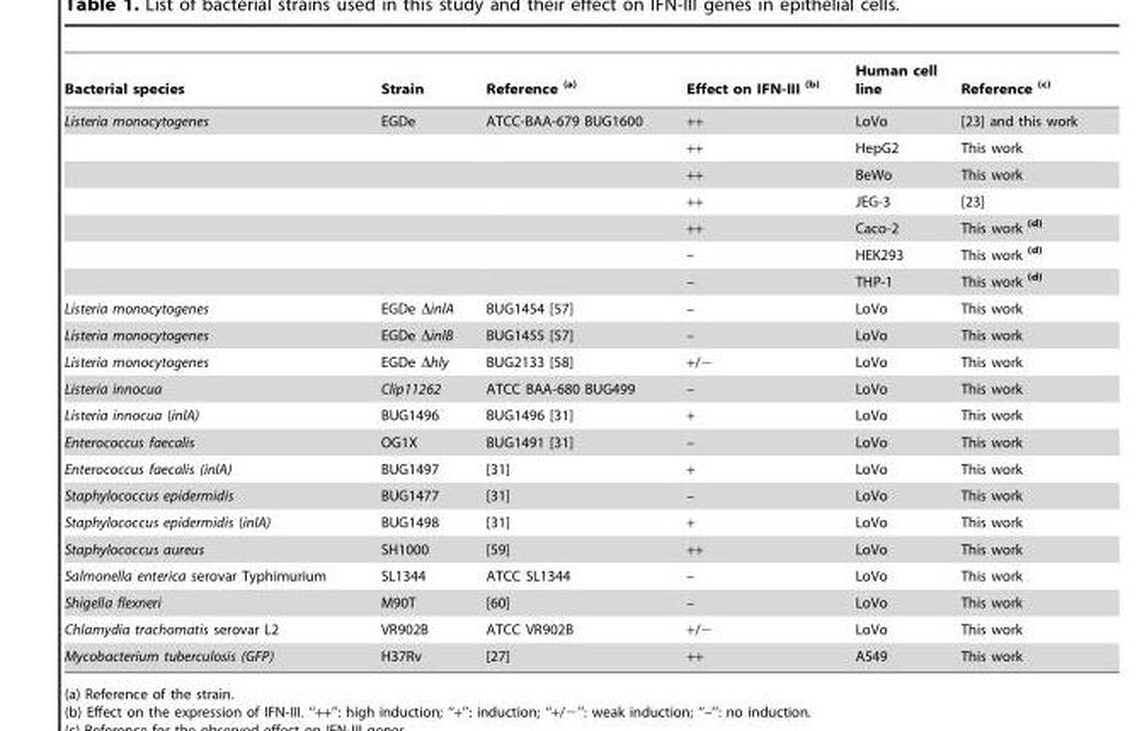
<table><thead><tr><td>Bacterial species</td><td>Strain</td><td>Reference <sup>(a)</sup></td><td>Effect on IFN-III <sup>(b)</sup></td><td>Human cell line</td><td>Reference <sup>(c)</sup></td></tr></thead><tbody><tr><td rowspan="7">Listeria monocytogenes</td><td>EGDe</td><td>ATCC-BAA-679 BUG1600</td><td>++</td><td>LoVo</td><td>[23] and this work</td></tr><tr><td></td><td></td><td>++</td><td>HepG2</td><td>This work</td></tr><tr><td></td><td></td><td>++</td><td>BeWo</td><td>This work</td></tr><tr><td></td><td></td><td>++</td><td>JEG-3</td><td>[23]</td></tr><tr><td></td><td></td><td>++</td><td>Caco-2</td><td>This work <sup>(d)</sup></td></tr><tr><td></td><td></td><td>–</td><td>HEK293</td><td>This work <sup>(d)</sup></td></tr><tr><td></td><td></td><td>–</td><td>THP-1</td><td>This work <sup>(d)</sup></td></tr><tr><td>Listeria monocytogenes</td><td>EGDe ΔinlA</td><td>BUG1454 [57]</td><td>–</td><td>LoVo</td><td>This work</td></tr><tr><td>Listeria monocytogenes</td><td>EGDe ΔinlB</td><td>BUG1455 [57]</td><td>–</td><td>LoVo</td><td>This work</td></tr><tr><td>Listeria monocytogenes</td><td>EGDe Δhly</td><td>BUG2133 [58]</td><td>+/−</td><td>LoVo</td><td>This work</td></tr><tr><td>Listeria innocua</td><td>Clip11262</td><td>ATCC BAA-680 BUG499</td><td>–</td><td>LoVo</td><td>This work</td></tr><tr><td>Listeria innocua (inlA)</td><td>BUG1496</td><td>BUG1496 [31]</td><td>+</td><td>LoVo</td><td>This work</td></tr><tr><td>Enterococcus faecalis</td><td>OG1X</td><td>BUG1491 [31]</td><td>–</td><td>LoVo</td><td>This work</td></tr><tr><td>Enterococcus faecalis (inlA)</td><td>BUG1497</td><td>[31]</td><td>+</td><td>LoVo</td><td>This work</td></tr><tr><td>Staphylococcus epidermidis</td><td>BUG1477</td><td>[31]</td><td>–</td><td>LoVo</td><td>This work</td></tr><tr><td>Staphylococcus epidermidis (inlA)</td><td>BUG1498</td><td>[31]</td><td>+</td><td>LoVo</td><td>This work</td></tr><tr><td>Staphylococcus aureus</td><td>SH1000</td><td>[59]</td><td>++</td><td>LoVo</td><td>This work</td></tr><tr><td>Salmonella enterica serovar Typhimurium</td><td>SL1344</td><td>ATCC SL1344</td><td>–</td><td>LoVo</td><td>This work</td></tr><tr><td>Shigella flexneri</td><td>M90T</td><td>[60]</td><td>–</td><td>LoVo</td><td>This work</td></tr><tr><td>Chlamydia trachomatis serovar L2</td><td>VR902B</td><td>ATCC VR902B</td><td>+/−</td><td>LoVo</td><td>This work</td></tr><tr><td>Mycobacterium tuberculosis (GFP)</td><td>H37Rv</td><td>[27]</td><td>++</td><td>A549</td><td>This work</td></tr></tbody></table>